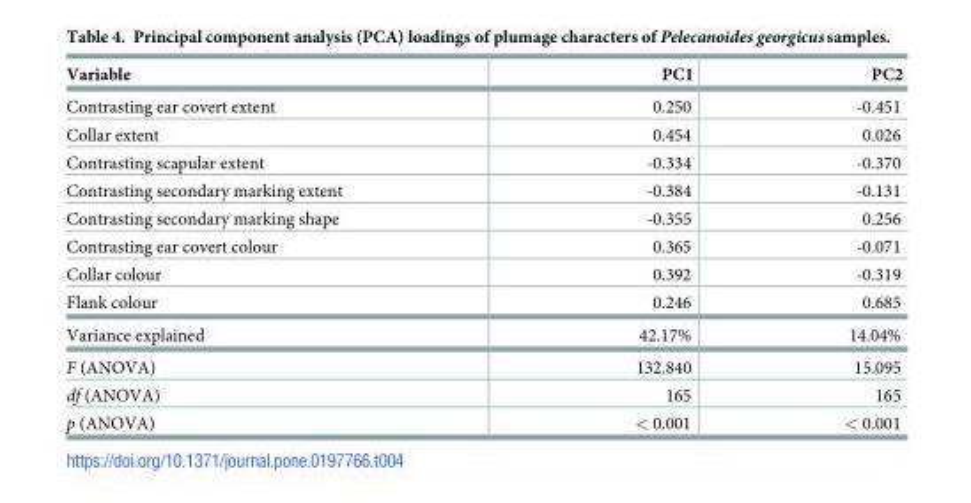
<table><thead><tr><td>Variable</td><td>PC1</td><td>PC2</td></tr></thead><tbody><tr><td>Contrasting ear covert extent</td><td>0.250</td><td>-0.451</td></tr><tr><td>Collar extent</td><td>0.454</td><td>0.026</td></tr><tr><td>Contrasting scapular extent</td><td>-0.334</td><td>-0.370</td></tr><tr><td>Contrasting secondary marking extent</td><td>-0.384</td><td>-0.131</td></tr><tr><td>Contrasting secondary marking shape</td><td>-0.355</td><td>0.256</td></tr><tr><td>Contrasting ear covert colour</td><td>0.365</td><td>-0.071</td></tr><tr><td>Collar colour</td><td>0.392</td><td>-0.319</td></tr><tr><td>Flank colour</td><td>0.246</td><td>0.685</td></tr><tr><td>Variance explained</td><td>42.17%</td><td>14.04%</td></tr><tr><td>F (ANOVA)</td><td>132.840</td><td>15.095</td></tr><tr><td>df (ANOVA)</td><td>165</td><td>165</td></tr><tr><td>p (ANOVA)</td><td>&lt; 0.001</td><td>&lt; 0.001</td></tr></tbody></table>